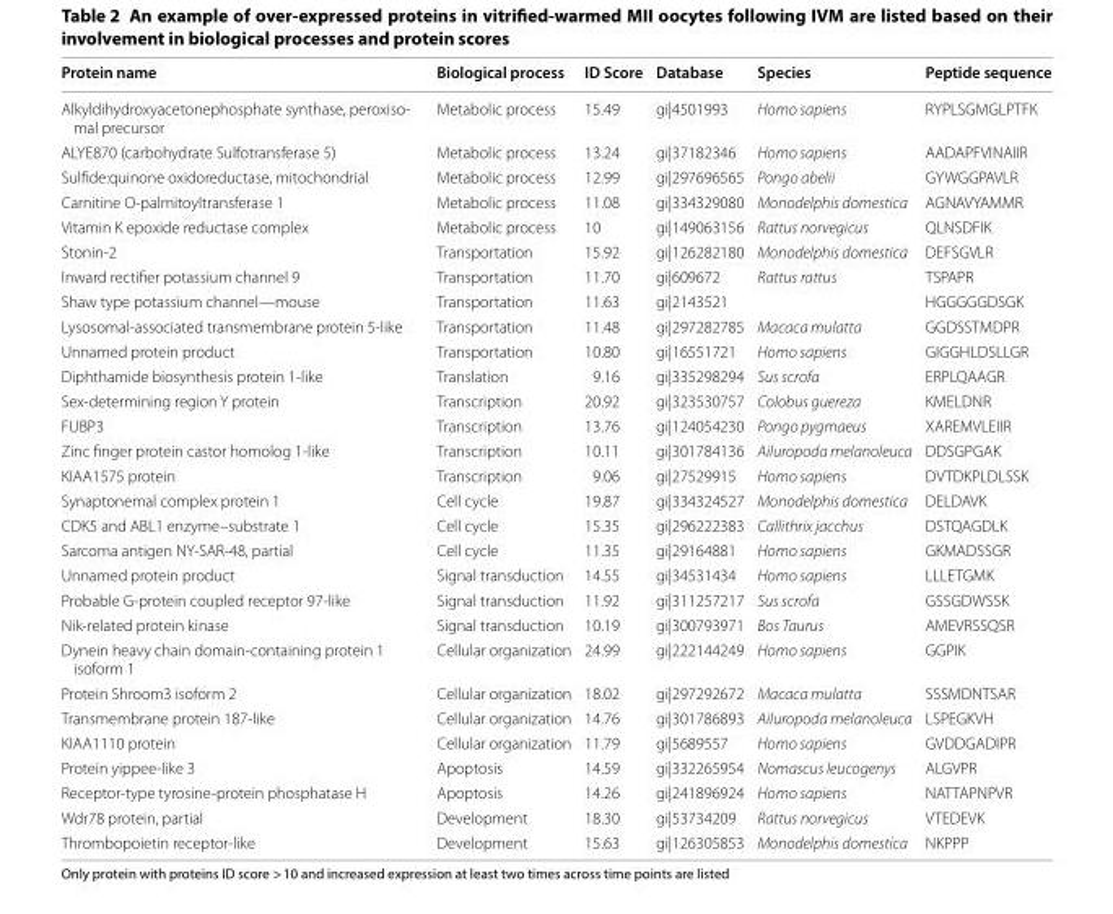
<table><thead><tr><td>Protein name</td><td>Biological process</td><td>ID Score</td><td>Database</td><td>Species</td><td>Peptide sequence</td></tr></thead><tbody><tr><td>Alkyldihydroxyacetonephosphate synthase, peroxiso- mal precursor</td><td>Metabolic process</td><td>15.49</td><td>gi|4501993</td><td>Homo sapiens</td><td>RYPLSGMGLPTFK</td></tr><tr><td>ALYE870 (carbohydrate Sulfotransferase 5)</td><td>Metabolic process</td><td>13.24</td><td>gi|37182346</td><td>Homo sapiens</td><td>AADAPFVINAIIR</td></tr><tr><td>Sulfide:quinone oxidoreductase, mitochondrial</td><td>Metabolic process</td><td>12.99</td><td>gi|297696565</td><td>Pongo abelii</td><td>GYWGGPAVLR</td></tr><tr><td>Carnitine O-palmitoyltransferase 1</td><td>Metabolic process</td><td>11.08</td><td>gi|334329080</td><td>Monodelphis domestica</td><td>AGNAVYAMMR</td></tr><tr><td>Vitamin K epoxide reductase complex</td><td>Metabolic process</td><td>10</td><td>gi|149063156</td><td>Rattus norvegicus</td><td>QLNSDFIK</td></tr><tr><td>Stonin-2</td><td>Transportation</td><td>15.92</td><td>gi|126282180</td><td>Monodelphis domestica</td><td>DEFSGVLR</td></tr><tr><td>Inward rectifier potassium channel 9</td><td>Transportation</td><td>11.70</td><td>gi|609672</td><td>Rattus rattus</td><td>TSPAPR</td></tr><tr><td>Shaw type potassium channel—mouse</td><td>Transportation</td><td>11.63</td><td>gi|2143521</td><td></td><td>HGGGGGDSGK</td></tr><tr><td>Lysosomal-associated transmembrane protein 5-like</td><td>Transportation</td><td>11.48</td><td>gi|297282785</td><td>Macaca mulatta</td><td>GGDSSTMDPR</td></tr><tr><td>Unnamed protein product</td><td>Transportation</td><td>10.80</td><td>gi|16551721</td><td>Homo sapiens</td><td>GIGGHLDSLLGR</td></tr><tr><td>Diphthamide biosynthesis protein 1-like</td><td>Translation</td><td>9.16</td><td>gi|335298294</td><td>Sus scrofa</td><td>ERPLQAAGR</td></tr><tr><td>Sex-determining region Y protein</td><td>Transcription</td><td>20.92</td><td>gi|323530757</td><td>Colobus guereza</td><td>KMELDNR</td></tr><tr><td>FUBP3</td><td>Transcription</td><td>13.76</td><td>gi|124054230</td><td>Pongo pygmaeus</td><td>XAREMVLEIIR</td></tr><tr><td>Zinc finger protein castor homolog 1-like</td><td>Transcription</td><td>10.11</td><td>gi|301784136</td><td>Ailuropoda melanoleuca</td><td>DDSGPGAK</td></tr><tr><td>KIAA1575 protein</td><td>Transcription</td><td>9.06</td><td>gi|27529915</td><td>Homo sapiens</td><td>DVTDKPLDLSSK</td></tr><tr><td>Synaptonemal complex protein 1</td><td>Cell cycle</td><td>19.87</td><td>gi|334324527</td><td>Monodelphis domestica</td><td>DELDAVK</td></tr><tr><td>CDK5 and ABL1 enzyme–substrate 1</td><td>Cell cycle</td><td>15.35</td><td>gi|296222383</td><td>Callithrix jacchus</td><td>DSTQAGDLK</td></tr><tr><td>Sarcoma antigen NY-SAR-48, partial</td><td>Cell cycle</td><td>11.35</td><td>gi|29164881</td><td>Homo sapiens</td><td>GKMADSSGR</td></tr><tr><td>Unnamed protein product</td><td>Signal transduction</td><td>14.55</td><td>gi|34531434</td><td>Homo sapiens</td><td>LLLETGMK</td></tr><tr><td>Probable G-protein coupled receptor 97-like</td><td>Signal transduction</td><td>11.92</td><td>gi|311257217</td><td>Sus scrofa</td><td>GSSGDWSSK</td></tr><tr><td>Nik-related protein kinase</td><td>Signal transduction</td><td>10.19</td><td>gi|300793971</td><td>Bos Taurus</td><td>AMEVRSSQSR</td></tr><tr><td>Dynein heavy chain domain-containing protein 1 isoform 1</td><td>Cellular organization</td><td>24.99</td><td>gi|222144249</td><td>Homo sapiens</td><td>GGPIK</td></tr><tr><td>Protein Shroom3 isoform 2</td><td>Cellular organization</td><td>18.02</td><td>gi|297292672</td><td>Macaca mulatta</td><td>SSSMDNTSAR</td></tr><tr><td>Transmembrane protein 187-like</td><td>Cellular organization</td><td>14.76</td><td>gi|301786893</td><td>Ailuropoda melanoleuca</td><td>LSPEGKVH</td></tr><tr><td>KIAA1110 protein</td><td>Cellular organization</td><td>11.79</td><td>gi|5689557</td><td>Homo sapiens</td><td>GVDDGADIPR</td></tr><tr><td>Protein yippee-like 3</td><td>Apoptosis</td><td>14.59</td><td>gi|332265954</td><td>Nomascus leucogenys</td><td>ALGVPR</td></tr><tr><td>Receptor-type tyrosine-protein phosphatase H</td><td>Apoptosis</td><td>14.26</td><td>gi|241896924</td><td>Homo sapiens</td><td>NATTAPNPVR</td></tr><tr><td>Wdr78 protein, partial</td><td>Development</td><td>18.30</td><td>gi|53734209</td><td>Rattus norvegicus</td><td>VTEDEVK</td></tr><tr><td>Thrombopoietin receptor-like</td><td>Development</td><td>15.63</td><td>gi|126305853</td><td>Monodelphis domestica</td><td>NKPPP</td></tr></tbody></table>